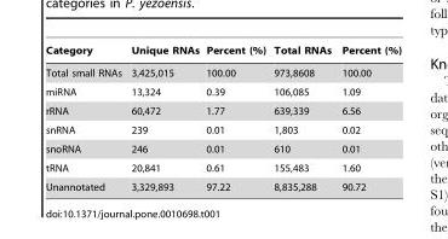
<table><thead><tr><td>Category</td><td>Unique RNAs</td><td>Percent (%)</td><td>Total RNAs</td><td>Percent (%)</td></tr></thead><tbody><tr><td>Total small RNAs</td><td>3,425,015</td><td>100.00</td><td>973,8608</td><td>100.00</td></tr><tr><td>miRNA</td><td>13,324</td><td>0.39</td><td>106,085</td><td>1.09</td></tr><tr><td>rRNA</td><td>60,472</td><td>1.77</td><td>639,339</td><td>6.56</td></tr><tr><td>snRNA</td><td>239</td><td>0.01</td><td>1,803</td><td>0.02</td></tr><tr><td>snoRNA</td><td>246</td><td>0.01</td><td>610</td><td>0.01</td></tr><tr><td>tRNA</td><td>20,841</td><td>0.61</td><td>155,483</td><td>1.60</td></tr><tr><td>Unannotated</td><td>3,329,893</td><td>97.22</td><td>8,835,288</td><td>90.72</td></tr></tbody></table>